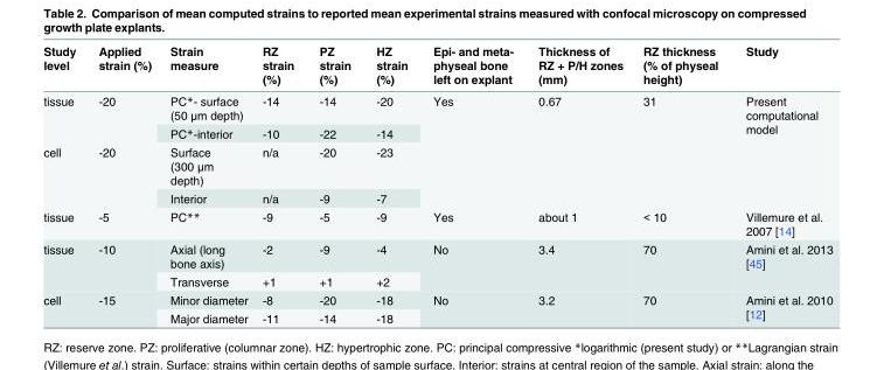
<table><thead><tr><td>Study level</td><td>Applied strain (%)</td><td>Strain measure</td><td>RZ strain (%)</td><td>PZ strain (%)</td><td>HZ strain (%)</td><td>Epi- and meta- physeal bone left on explant</td><td>Thickness of RZ + P/H zones (mm)</td><td>RZ thickness (% of physeal height)</td><td>Study</td></tr></thead><tbody><tr><td rowspan="2">tissue</td><td rowspan="2">-20</td><td>PC*- surface (50 μm depth)</td><td>-14</td><td>-14</td><td>-20</td><td rowspan="4">Yes</td><td rowspan="4">0.67</td><td rowspan="4">31</td><td rowspan="4">Present computational model</td></tr><tr><td>PC*-interior</td><td>-10</td><td>-22</td><td>-14</td></tr><tr><td rowspan="2">cell</td><td rowspan="2">-20</td><td>Surface (300 μm depth)</td><td>n/a</td><td>-20</td><td>-23</td></tr><tr><td>Interior</td><td>n/a</td><td>-9</td><td>-7</td></tr><tr><td>tissue</td><td>-5</td><td>PC**</td><td>-9</td><td>-5</td><td>-9</td><td>Yes</td><td>about 1</td><td>&lt; 10</td><td>Villemure et al. 2007 [14]</td></tr><tr><td rowspan="2">tissue</td><td rowspan="2">-10</td><td>Axial (long bone axis)</td><td>-2</td><td>-9</td><td>-4</td><td rowspan="2">No</td><td rowspan="2">3.4</td><td rowspan="2">70</td><td rowspan="2">Amini et al. 2013 [45]</td></tr><tr><td>Transverse</td><td>+1</td><td>+1</td><td>+2</td></tr><tr><td rowspan="2">cell</td><td rowspan="2">-15</td><td>Minor diameter</td><td>-8</td><td>-20</td><td>-18</td><td rowspan="2">No</td><td rowspan="2">3.2</td><td rowspan="2">70</td><td rowspan="2">Amini et al. 2010 [12]</td></tr><tr><td>Major diameter</td><td>-11</td><td>-14</td><td>-18</td></tr></tbody></table>